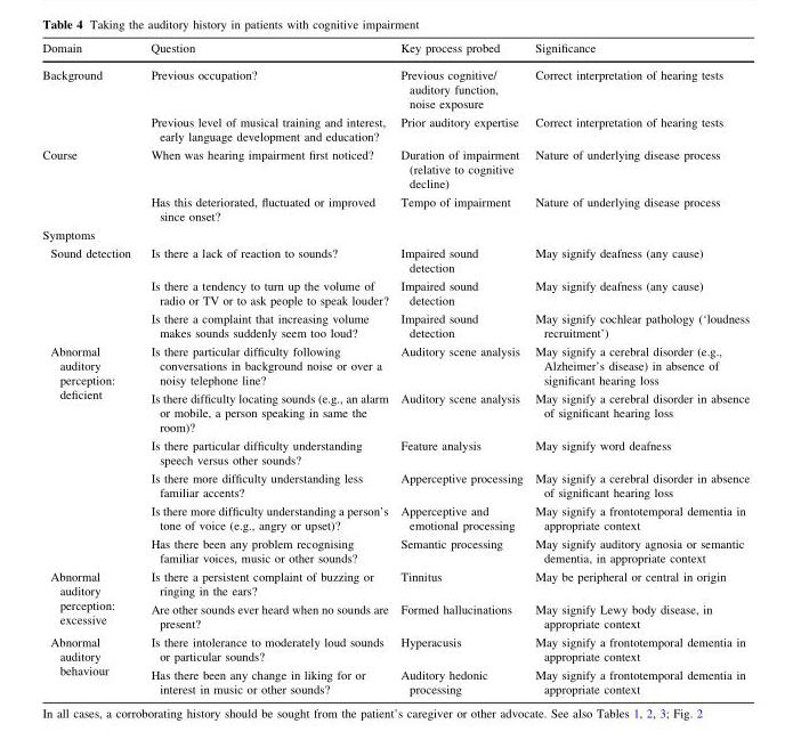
<table><thead><tr><td>Domain</td><td>Question</td><td>Key process probed</td><td>Significance</td></tr></thead><tbody><tr><td rowspan="2">Background</td><td>Previous occupation?</td><td>Previous cognitive/ auditory function, noise exposure</td><td>Correct interpretation of hearing tests</td></tr><tr><td>Previous level of musical training and interest, early language development and education?</td><td>Prior auditory expertise</td><td>Correct interpretation of hearing tests</td></tr><tr><td rowspan="2">Course</td><td>When was hearing impairment first noticed?</td><td>Duration of impairment (relative to cognitive decline)</td><td>Nature of underlying disease process</td></tr><tr><td>Has this deteriorated, fluctuated or improved since onset?</td><td>Tempo of impairment</td><td>Nature of underlying disease process</td></tr><tr><td colspan="4">Symptoms</td></tr><tr><td rowspan="3">Sound detection</td><td>Is there a lack of reaction to sounds?</td><td>Impaired sound detection</td><td>May signify deafness (any cause)</td></tr><tr><td>Is there a tendency to turn up the volume of radio or TV or to ask people to speak louder?</td><td>Impaired sound detection</td><td>May signify deafness (any cause)</td></tr><tr><td>Is there a complaint that increasing volume makes sounds suddenly seem too loud?</td><td>Impaired sound detection</td><td>May signify cochlear pathology (‘loudness recruitment’)</td></tr><tr><td rowspan="6">Abnormal auditory perception: deficient</td><td>Is there particular difficulty following conversations in background noise or over a noisy telephone line?</td><td>Auditory scene analysis</td><td>May signify a cerebral disorder (e.g., Alzheimer’s disease) in absence of significant hearing loss</td></tr><tr><td>Is there difficulty locating sounds (e.g., an alarm or mobile, a person speaking in same the room)?</td><td>Auditory scene analysis</td><td>May signify a cerebral disorder in absence of significant hearing loss</td></tr><tr><td>Is there particular difficulty understanding speech versus other sounds?</td><td>Feature analysis</td><td>May signify word deafness</td></tr><tr><td>Is there more difficulty understanding less familiar accents?</td><td>Apperceptive processing</td><td>May signify a cerebral disorder in absence of significant hearing loss</td></tr><tr><td>Is there more difficulty understanding a person’s tone of voice (e.g., angry or upset)?</td><td>Apperceptive and emotional processing</td><td>May signify a frontotemporal dementia in appropriate context</td></tr><tr><td>Has there been any problem recognising familiar voices, music or other sounds?</td><td>Semantic processing</td><td>May signify auditory agnosia or semantic dementia, in appropriate context</td></tr><tr><td rowspan="2">Abnormal auditory perception: excessive</td><td>Is there a persistent complaint of buzzing or ringing in the ears?</td><td>Tinnitus</td><td>May be peripheral or central in origin</td></tr><tr><td>Are other sounds ever heard when no sounds are present?</td><td>Formed hallucinations</td><td>May signify Lewy body disease, in appropriate context</td></tr><tr><td rowspan="2">Abnormal auditory behaviour</td><td>Is there intolerance to moderately loud sounds or particular sounds?</td><td>Hyperacusis</td><td>May signify a frontotemporal dementia in appropriate context</td></tr><tr><td>Has there been any change in liking for or interest in music or other sounds?</td><td>Auditory hedonic processing</td><td>May signify a frontotemporal dementia in appropriate context</td></tr></tbody></table>